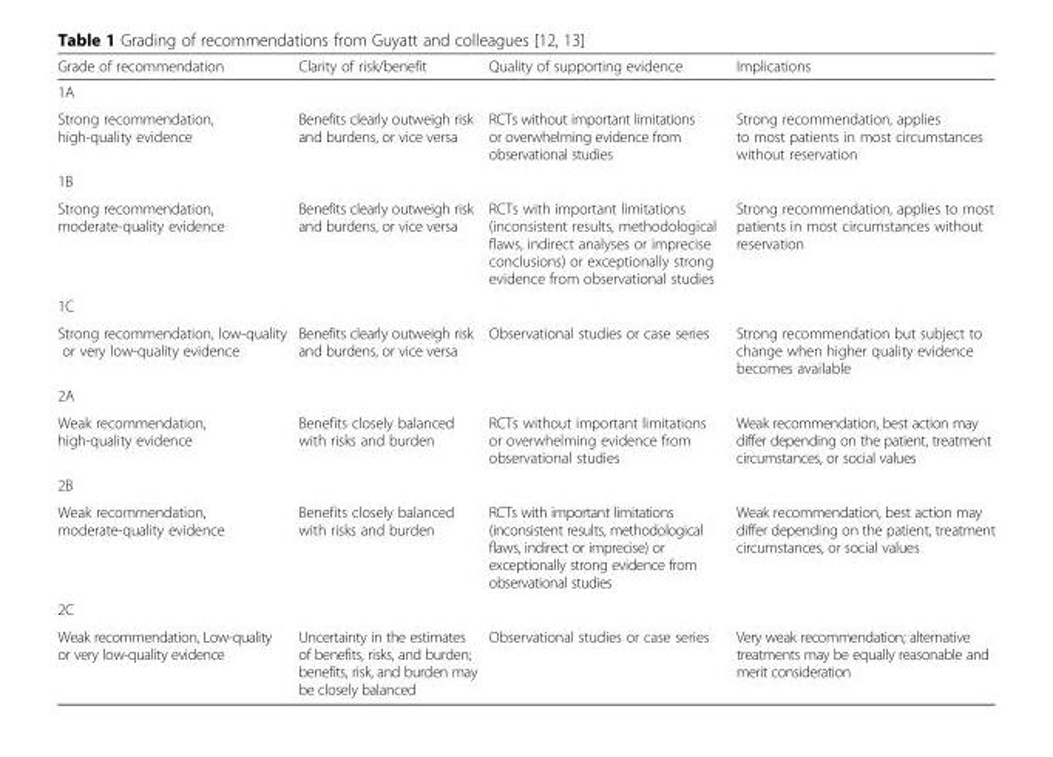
<table><thead><tr><td>Grade of recommendation</td><td>Clarity of risk/benefit</td><td>Quality of supporting evidence</td><td>Implications</td></tr></thead><tbody><tr><td colspan="4">1A</td></tr><tr><td>Strong recommendation, high-quality evidence</td><td>Benefits clearly outweigh risk and burdens, or vice versa</td><td>RCTs without important limitations or overwhelming evidence from observational studies</td><td>Strong recommendation, applies to most patients in most circumstances without reservation</td></tr><tr><td colspan="4">1B</td></tr><tr><td>Strong recommendation, moderate-quality evidence</td><td>Benefits clearly outweigh risk and burdens, or vice versa</td><td>RCTs with important limitations (inconsistent results, methodological flaws, indirect analyses or imprecise conclusions) or exceptionally strong evidence from observational studies</td><td>Strong recommendation, applies to most patients in most circumstances without reservation</td></tr><tr><td colspan="4">1C</td></tr><tr><td>Strong recommendation, low-quality or very low-quality evidence</td><td>Benefits clearly outweigh risk and burdens, or vice versa</td><td>Observational studies or case series</td><td>Strong recommendation but subject to change when higher quality evidence becomes available</td></tr><tr><td colspan="4">2A</td></tr><tr><td>Weak recommendation, high-quality evidence</td><td>Benefits closely balanced with risks and burden</td><td>RCTs without important limitations or overwhelming evidence from observational studies</td><td>Weak recommendation, best action may differ depending on the patient, treatment circumstances, or social values</td></tr><tr><td colspan="4">2B</td></tr><tr><td>Weak recommendation, moderate-quality evidence</td><td>Benefits closely balanced with risks and burden</td><td>RCTs with important limitations (inconsistent results, methodological flaws, indirect or imprecise) or exceptionally strong evidence from observational studies</td><td>Weak recommendation, best action may differ depending on the patient, treatment circumstances, or social values</td></tr><tr><td colspan="4">2C</td></tr><tr><td>Weak recommendation, Low-quality or very low-quality evidence</td><td>Uncertainty in the estimates of benefits, risks, and burden; benefits, risk, and burden may be closely balanced</td><td>Observational studies or case series</td><td>Very weak recommendation; alternative treatments may be equally reasonable and merit consideration</td></tr></tbody></table>